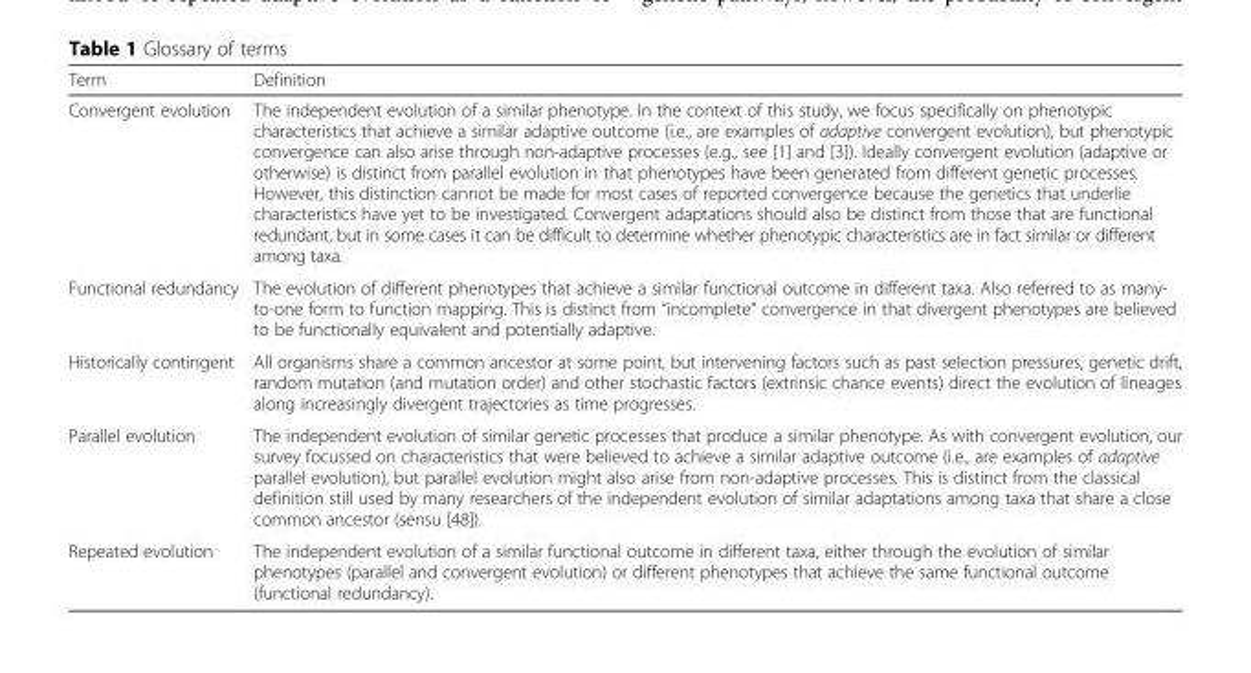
<table><thead><tr><td>Term</td><td>Definition</td></tr></thead><tbody><tr><td>Convergent evolution</td><td>The independent evolution of a similar phenotype. In the context of this study, we focus specifically on phenotypic characteristics that achieve a similar adaptive outcome (i.e., are examples of adaptive convergent evolution), but phenotypic convergence can also arise through non-adaptive processes (e.g., see [1] and [3]). Ideally convergent evolution (adaptive or otherwise) is distinct from parallel evolution in that phenotypes have been generated from different genetic processes. However, this distinction cannot be made for most cases of reported convergence because the genetics that underlie characteristics have yet to be investigated. Convergent adaptations should also be distinct from those that are functional redundant, but in some cases it can be difficult to determine whether phenotypic characteristics are in fact similar or different among taxa.</td></tr><tr><td>Functional redundancy</td><td>The evolution of different phenotypes that achieve a similar functional outcome in different taxa. Also referred to as many- to-one form to function mapping. This is distinct from “incomplete” convergence in that divergent phenotypes are believed to be functionally equivalent and potentially adaptive.</td></tr><tr><td>Historically contingent</td><td>All organisms share a common ancestor at some point, but intervening factors such as past selection pressures, genetic drift, random mutation (and mutation order) and other stochastic factors (extrinsic chance events) direct the evolution of lineages along increasingly divergent trajectories as time progresses.</td></tr><tr><td>Parallel evolution</td><td>The independent evolution of similar genetic processes that produce a similar phenotype. As with convergent evolution, our survey focussed on characteristics that were believed to achieve a similar adaptive outcome (i.e., are examples of adaptive parallel evolution), but parallel evolution might also arise from non-adaptive processes. This is distinct from the classical definition still used by many researchers of the independent evolution of similar adaptations among taxa that share a close common ancestor (sensu [48]).</td></tr><tr><td>Repeated evolution</td><td>The independent evolution of a similar functional outcome in different taxa, either through the evolution of similar phenotypes (parallel and convergent evolution) or different phenotypes that achieve the same functional outcome (functional redundancy).</td></tr></tbody></table>